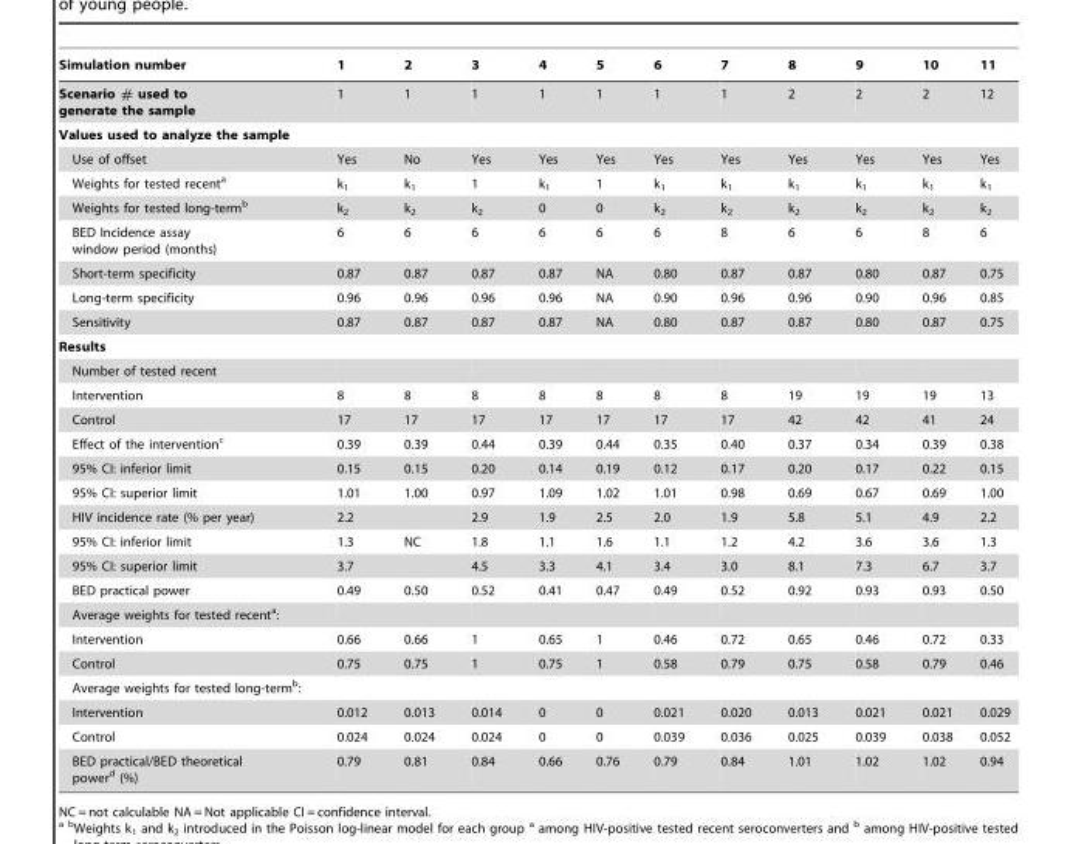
<table><thead><tr><td>Simulation number</td><td>1</td><td>2</td><td>3</td><td>4</td><td>5</td><td>6</td><td>7</td><td>8</td><td>9</td><td>10</td><td>11</td></tr></thead><tbody><tr><td>Scenario # used to generate the sample</td><td>1</td><td>1</td><td>1</td><td>1</td><td>1</td><td>1</td><td>1</td><td>2</td><td>2</td><td>2</td><td>12</td></tr><tr><td colspan="12">Values used to analyze the sample</td></tr><tr><td>Use of offset</td><td>Yes</td><td>No</td><td>Yes</td><td>Yes</td><td>Yes</td><td>Yes</td><td>Yes</td><td>Yes</td><td>Yes</td><td>Yes</td><td>Yes</td></tr><tr><td>Weights for tested recent<sup>a</sup></td><td>k<sub>1</sub></td><td>k<sub>1</sub></td><td>1</td><td>k<sub>1</sub></td><td>1</td><td>k<sub>1</sub></td><td>k<sub>1</sub></td><td>k<sub>1</sub></td><td>k<sub>1</sub></td><td>k<sub>1</sub></td><td>k<sub>1</sub></td></tr><tr><td>Weights for tested long-term<sup>b</sup></td><td>k<sub>2</sub></td><td>k<sub>2</sub></td><td>k<sub>2</sub></td><td>0</td><td>0</td><td>k<sub>2</sub></td><td>k<sub>2</sub></td><td>k<sub>2</sub></td><td>k<sub>2</sub></td><td>k<sub>2</sub></td><td>k<sub>2</sub></td></tr><tr><td>BED Incidence assay window period (months)</td><td>6</td><td>6</td><td>6</td><td>6</td><td>6</td><td>6</td><td>8</td><td>6</td><td>6</td><td>8</td><td>6</td></tr><tr><td>Short-term specificity</td><td>0.87</td><td>0.87</td><td>0.87</td><td>0.87</td><td>NA</td><td>0.80</td><td>0.87</td><td>0.87</td><td>0.80</td><td>0.87</td><td>0.75</td></tr><tr><td>Long-term specificity</td><td>0.96</td><td>0.96</td><td>0.96</td><td>0.96</td><td>NA</td><td>0.90</td><td>0.96</td><td>0.96</td><td>0.90</td><td>0.96</td><td>0.85</td></tr><tr><td>Sensitivity</td><td>0.87</td><td>0.87</td><td>0.87</td><td>0.87</td><td>NA</td><td>0.80</td><td>0.87</td><td>0.87</td><td>0.80</td><td>0.87</td><td>0.75</td></tr><tr><td colspan="12">Results</td></tr><tr><td colspan="12">Number of tested recent</td></tr><tr><td>Intervention</td><td>8</td><td>8</td><td>8</td><td>8</td><td>8</td><td>8</td><td>8</td><td>19</td><td>19</td><td>19</td><td>13</td></tr><tr><td>Control</td><td>17</td><td>17</td><td>17</td><td>17</td><td>17</td><td>17</td><td>17</td><td>42</td><td>42</td><td>41</td><td>24</td></tr><tr><td>Effect of the intervention<sup>c</sup></td><td>0.39</td><td>0.39</td><td>0.44</td><td>0.39</td><td>0.44</td><td>0.35</td><td>0.40</td><td>0.37</td><td>0.34</td><td>0.39</td><td>0.38</td></tr><tr><td>95% CI: inferior limit</td><td>0.15</td><td>0.15</td><td>0.20</td><td>0.14</td><td>0.19</td><td>0.12</td><td>0.17</td><td>0.20</td><td>0.17</td><td>0.22</td><td>0.15</td></tr><tr><td>95% CI: superior limit</td><td>1.01</td><td>1.00</td><td>0.97</td><td>1.09</td><td>1.02</td><td>1.01</td><td>0.98</td><td>0.69</td><td>0.67</td><td>0.69</td><td>1.00</td></tr><tr><td>HIV incidence rate (% per year)</td><td>2.2</td><td></td><td>2.9</td><td>1.9</td><td>2.5</td><td>2.0</td><td>1.9</td><td>5.8</td><td>5.1</td><td>4.9</td><td>2.2</td></tr><tr><td>95% CI: inferior limit</td><td>1.3</td><td>NC</td><td>1.8</td><td>1.1</td><td>1.6</td><td>1.1</td><td>1.2</td><td>4.2</td><td>3.6</td><td>3.6</td><td>1.3</td></tr><tr><td>95% CI: superior limit</td><td>3.7</td><td></td><td>4.5</td><td>3.3</td><td>4.1</td><td>3.4</td><td>3.0</td><td>8.1</td><td>7.3</td><td>6.7</td><td>3.7</td></tr><tr><td>BED practical power</td><td>0.49</td><td>0.50</td><td>0.52</td><td>0.41</td><td>0.47</td><td>0.49</td><td>0.52</td><td>0.92</td><td>0.93</td><td>0.93</td><td>0.50</td></tr><tr><td colspan="12">Average weights for tested recent<sup>a</sup>:</td></tr><tr><td>Intervention</td><td>0.66</td><td>0.66</td><td>1</td><td>0.65</td><td>1</td><td>0.46</td><td>0.72</td><td>0.65</td><td>0.46</td><td>0.72</td><td>0.33</td></tr><tr><td>Control</td><td>0.75</td><td>0.75</td><td>1</td><td>0.75</td><td>1</td><td>0.58</td><td>0.79</td><td>0.75</td><td>0.58</td><td>0.79</td><td>0.46</td></tr><tr><td colspan="12">Average weights for tested long-term<sup>b</sup>:</td></tr><tr><td>Intervention</td><td>0.012</td><td>0.013</td><td>0.014</td><td>0</td><td>0</td><td>0.021</td><td>0.020</td><td>0.013</td><td>0.021</td><td>0.021</td><td>0.029</td></tr><tr><td>Control</td><td>0.024</td><td>0.024</td><td>0.024</td><td>0</td><td>0</td><td>0.039</td><td>0.036</td><td>0.025</td><td>0.039</td><td>0.038</td><td>0.052</td></tr><tr><td>BED practical/BED theoretical power<sup>d</sup> (%)</td><td>0.79</td><td>0.81</td><td>0.84</td><td>0.66</td><td>0.76</td><td>0.79</td><td>0.84</td><td>1.01</td><td>1.02</td><td>1.02</td><td>0.94</td></tr></tbody></table>